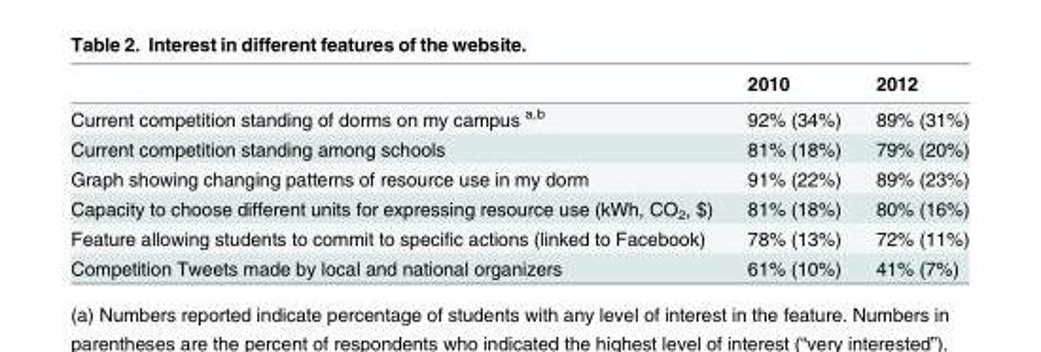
<table><thead><tr><td></td><td>2010</td><td>2012</td></tr></thead><tbody><tr><td>Current competition standing of dorms on my campus <sup>a,b</sup></td><td>92% (34%)</td><td>89% (31%)</td></tr><tr><td>Current competition standing among schools</td><td>81% (18%)</td><td>79% (20%)</td></tr><tr><td>Graph showing changing patterns of resource use in my dorm</td><td>91% (22%)</td><td>89% (23%)</td></tr><tr><td>Capacity to choose different units for expressing resource use (kWh, CO<sub>2</sub>, $)</td><td>81% (18%)</td><td>80% (16%)</td></tr><tr><td>Feature allowing students to commit to specific actions (linked to Facebook)</td><td>78% (13%)</td><td>72% (11%)</td></tr><tr><td>Competition Tweets made by local and national organizers</td><td>61% (10%)</td><td>41% (7%)</td></tr></tbody></table>